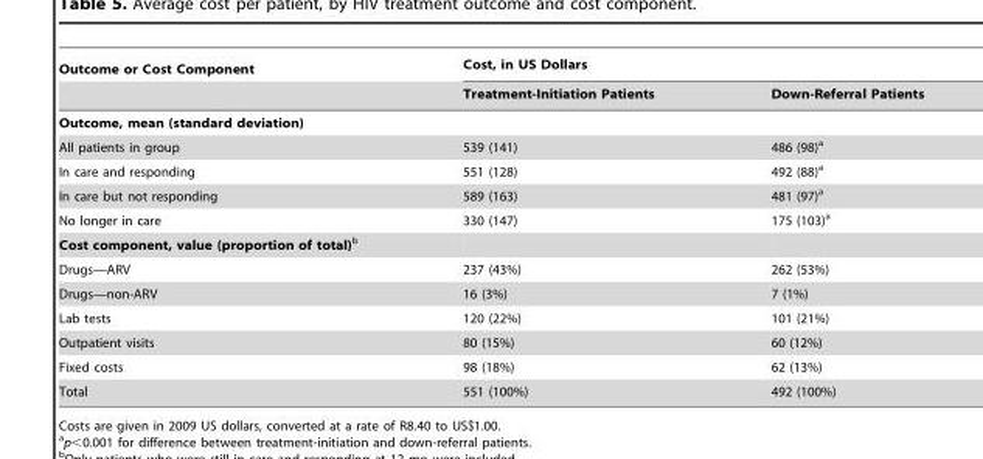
<table><thead><tr><td rowspan="2">Outcome or Cost Component</td><td colspan="2">Cost, in US Dollars</td></tr><tr><td>Treatment-Initiation Patients</td><td>Down-Referral Patients</td></tr></thead><tbody><tr><td colspan="3">Outcome, mean (standard deviation)</td></tr><tr><td>All patients in group</td><td>539 (141)</td><td>486 (98)<sup>a</sup></td></tr><tr><td>In care and responding</td><td>551 (128)</td><td>492 (88)<sup>a</sup></td></tr><tr><td>In care but not responding</td><td>589 (163)</td><td>481 (97)<sup>a</sup></td></tr><tr><td>No longer in care</td><td>330 (147)</td><td>175 (103)<sup>a</sup></td></tr><tr><td colspan="3">Cost component, value (proportion of total)b</td></tr><tr><td>Drugs—ARV</td><td>237 (43%)</td><td>262 (53%)</td></tr><tr><td>Drugs—non-ARV</td><td>16 (3%)</td><td>7 (1%)</td></tr><tr><td>Lab tests</td><td>120 (22%)</td><td>101 (21%)</td></tr><tr><td>Outpatient visits</td><td>80 (15%)</td><td>60 (12%)</td></tr><tr><td>Fixed costs</td><td>98 (18%)</td><td>62 (13%)</td></tr><tr><td>Total</td><td>551 (100%)</td><td>492 (100%)</td></tr></tbody></table>